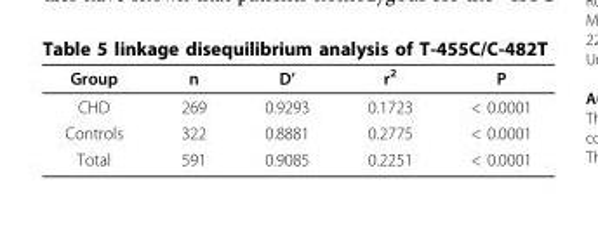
<table><thead><tr><td>Group</td><td>n</td><td>D’</td><td>r<sup>2</sup></td><td>P</td></tr></thead><tbody><tr><td>CHD</td><td>269</td><td>0.9293</td><td>0.1723</td><td>&lt; 0.0001</td></tr><tr><td>Controls</td><td>322</td><td>0.8881</td><td>0.2775</td><td>&lt; 0.0001</td></tr><tr><td>Total</td><td>591</td><td>0.9085</td><td>0.2251</td><td>&lt; 0.0001</td></tr></tbody></table>